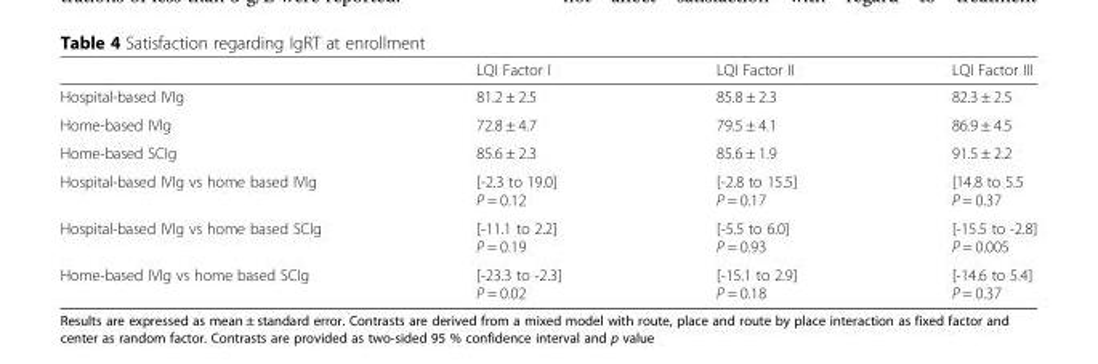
<table><thead><tr><td></td><td>LQI Factor I</td><td>LQI Factor II</td><td>LQI Factor III</td></tr></thead><tbody><tr><td>Hospital-based IVIg</td><td>81.2 ± 2.5</td><td>85.8 ± 2.3</td><td>82.3 ± 2.5</td></tr><tr><td>Home-based IVIg</td><td>72.8 ± 4.7</td><td>79.5 ± 4.1</td><td>86.9 ± 4.5</td></tr><tr><td>Home-based SCIg</td><td>85.6 ± 2.3</td><td>85.6 ± 1.9</td><td>91.5 ± 2.2</td></tr><tr><td>Hospital-based IVIg vs home based IVIg</td><td>[-2.3 to 19.0] P = 0.12</td><td>[-2.8 to 15.5] P = 0.17</td><td>[14.8 to 5.5 P = 0.37</td></tr><tr><td>Hospital-based IVIg vs home based SCIg</td><td>[-11.1 to 2.2] P = 0.19</td><td>[-5.5 to 6.0] P = 0.93</td><td>[-15.5 to -2.8] P = 0.005</td></tr><tr><td>Home-based IVIg vs home based SCIg</td><td>[-23.3 to -2.3] P = 0.02</td><td>[-15.1 to 2.9] P = 0.18</td><td>[-14.6 to 5.4] P = 0.37</td></tr></tbody></table>